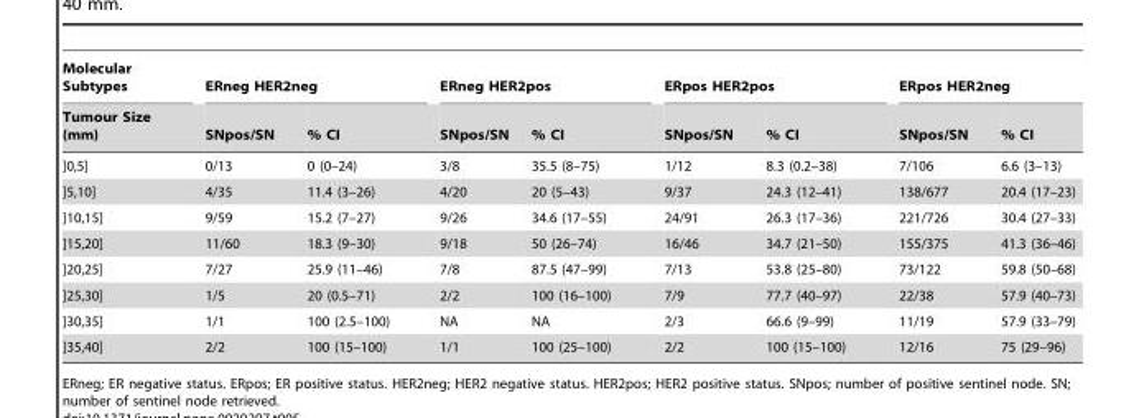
<table><thead><tr><td rowspan="2">Molecular Subtypes Tumour Size (mm)</td><td colspan="2">ERneg HER2neg</td><td colspan="2">ERneg HER2pos</td><td colspan="2">ERpos HER2pos</td><td colspan="2">ERpos HER2neg</td></tr><tr><td>SNpos/SN</td><td>% CI</td><td>SNpos/SN</td><td>% CI</td><td>SNpos/SN</td><td>% CI</td><td>SNpos/SN</td><td>% CI</td></tr></thead><tbody><tr><td>]0,5]</td><td>0/13</td><td>0 (0–24)</td><td>3/8</td><td>35.5 (8–75)</td><td>1/12</td><td>8.3 (0.2–38)</td><td>7/106</td><td>6.6 (3–13)</td></tr><tr><td>]5,10]</td><td>4/35</td><td>11.4 (3–26)</td><td>4/20</td><td>20 (5–43)</td><td>9/37</td><td>24.3 (12–41)</td><td>138/677</td><td>20.4 (17–23)</td></tr><tr><td>]10,15]</td><td>9/59</td><td>15.2 (7–27)</td><td>9/26</td><td>34.6 (17–55)</td><td>24/91</td><td>26.3 (17–36)</td><td>221/726</td><td>30.4 (27–33)</td></tr><tr><td>]15,20]</td><td>11/60</td><td>18.3 (9–30)</td><td>9/18</td><td>50 (26–74)</td><td>16/46</td><td>34.7 (21–50)</td><td>155/375</td><td>41.3 (36–46)</td></tr><tr><td>]20,25]</td><td>7/27</td><td>25.9 (11–46)</td><td>7/8</td><td>87.5 (47–99)</td><td>7/13</td><td>53.8 (25–80)</td><td>73/122</td><td>59.8 (50–68)</td></tr><tr><td>]25,30]</td><td>1/5</td><td>20 (0.5–71)</td><td>2/2</td><td>100 (16–100)</td><td>7/9</td><td>77.7 (40–97)</td><td>22/38</td><td>57.9 (40–73)</td></tr><tr><td>]30,35]</td><td>1/1</td><td>100 (2.5–100)</td><td>NA</td><td>NA</td><td>2/3</td><td>66.6 (9–99)</td><td>11/19</td><td>57.9 (33–79)</td></tr><tr><td>]35,40]</td><td>2/2</td><td>100 (15–100)</td><td>1/1</td><td>100 (25–100)</td><td>2/2</td><td>100 (15–100)</td><td>12/16</td><td>75 (29–96)</td></tr></tbody></table>